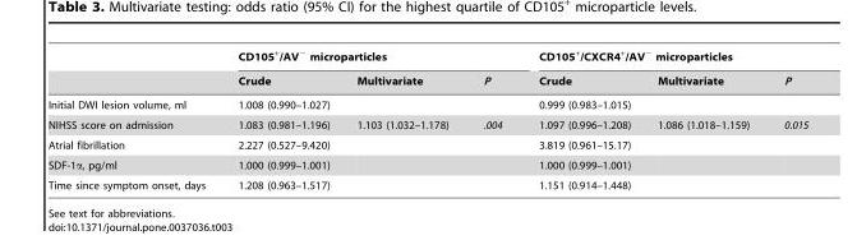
<table><thead><tr><td rowspan="2"></td><td colspan="3">CD105<sup>+</sup>/AV<sup>−</sup> microparticles</td><td colspan="3">CD105<sup>+</sup>/CXCR4<sup>+</sup>/AV<sup>−</sup> microparticles</td></tr><tr><td>Crude</td><td>Multivariate</td><td>P</td><td>Crude</td><td>Multivariate</td><td>P</td></tr></thead><tbody><tr><td>Initial DWI lesion volume, ml</td><td>1.008 (0.990–1.027)</td><td></td><td></td><td>0.999 (0.983–1.015)</td><td></td><td></td></tr><tr><td>NIHSS score on admission</td><td>1.083 (0.981–1.196)</td><td>1.103 (1.032–1.178)</td><td>.004</td><td>1.097 (0.996–1.208)</td><td>1.086 (1.018–1.159)</td><td>0.015</td></tr><tr><td>Atrial fibrillation</td><td>2.227 (0.527–9.420)</td><td></td><td></td><td>3.819 (0.961–15.17)</td><td></td><td></td></tr><tr><td>SDF-1α, pg/ml</td><td>1.000 (0.999–1.001)</td><td></td><td></td><td>1.000 (0.999–1.001)</td><td></td><td></td></tr><tr><td>Time since symptom onset, days</td><td>1.208 (0.963–1.517)</td><td></td><td></td><td>1.151 (0.914–1.448)</td><td></td><td></td></tr></tbody></table>